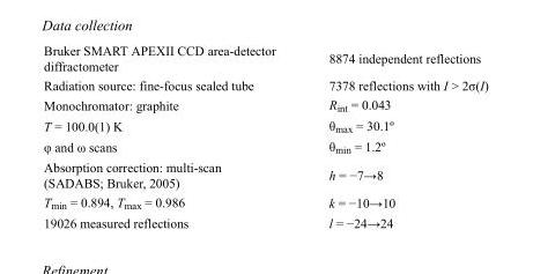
<table><tbody><tr><td>Bruker SMART APEXII CCD area-detector diffractometer</td><td>8874 independent reflections</td></tr><tr><td>Radiation source: fine-focus sealed tube</td><td>7378 reflections with I &gt; 2σ(I)</td></tr><tr><td>Monochromator: graphite</td><td>R<sub>int</sub> = 0.043</td></tr><tr><td>T = 100.0(1) K</td><td>θ<sub>max</sub> = 30.1º</td></tr><tr><td>φ and ω scans</td><td>θ<sub>min</sub> = 1.2º</td></tr><tr><td>Absorption correction: multi-scan (SADABS; Bruker, 2005)</td><td>h = −7→8</td></tr><tr><td>T<sub>min</sub> = 0.894, T<sub>max</sub> = 0.986</td><td>k = −10→10</td></tr><tr><td>19026 measured reflections</td><td>l = −24→24</td></tr></tbody></table>